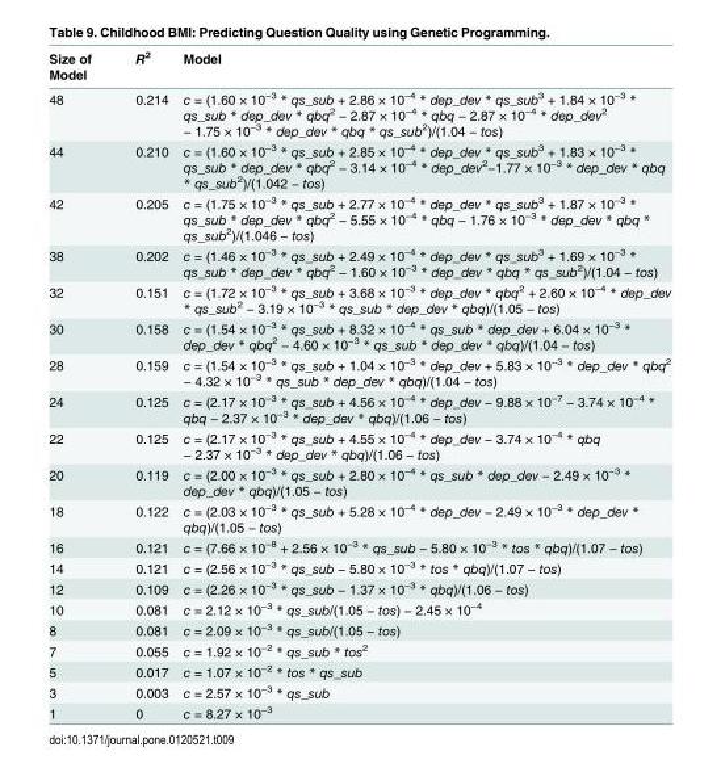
<table><thead><tr><td>Size of Model</td><td>R<sup>2</sup></td><td>Model</td></tr></thead><tbody><tr><td>48</td><td>0.214</td><td>c = (1.60 × 10−3 * qs_sub + 2.86 × 10−4 * dep_dev * qs_sub3 + 1.84 × 10−3 * qs_sub * dep_dev * qbq2 − 2.87 × 10−4 * qbq − 2.87 × 10−4 * dep_dev2 − 1.75 × 10−3 * dep_dev * qbq * qs_sub2)/(1.04 − tos)</td></tr><tr><td>44</td><td>0.210</td><td>c = (1.60 × 10−3 * qs_sub + 2.85 × 10−4 * dep_dev * qs_sub3 + 1.83 × 10−3 * qs_sub * dep_dev * qbq2 − 3.14 × 10−4 * dep_dev2−1.77 × 10−3 * dep_dev * qbq * qs_sub2)/(1.042 − tos)</td></tr><tr><td>42</td><td>0.205</td><td>c = (1.75 × 10−3 * qs_sub + 2.77 × 10−4 * dep_dev * qs_sub3 + 1.87 × 10−3 * qs_sub * dep_dev * qbq2 − 5.55 × 10−4 * qbq − 1.76 × 10−3 * dep_dev * qbq * qs_sub2)/(1.046 − tos)</td></tr><tr><td>38</td><td>0.202</td><td>c = (1.46 × 10−3 * qs_sub + 2.49 × 10−4 * dep_dev * qs_sub3 + 1.69 × 10−3 * qs_sub * dep_dev * qbq2 − 1.60 × 10−3 * dep_dev * qbq * qs_sub2)/(1.04 − tos)</td></tr><tr><td>32</td><td>0.151</td><td>c = (1.72 × 10<sup>−3</sup> * qs_sub + 3.68 × 10<sup>−3</sup> * dep_dev * qbq<sup>2</sup> + 2.60 × 10<sup>−4</sup> * dep_dev * qs_sub<sup>2</sup> − 3.19 × 10<sup>−3</sup> * qs_sub * dep_dev * qbq)/(1.05 − tos)</td></tr><tr><td>30</td><td>0.158</td><td>c = (1.54 × 10<sup>−3</sup> * qs_sub + 8.32 × 10<sup>−4</sup> * qs_sub * dep_dev + 6.04 × 10<sup>−3</sup> * dep_dev * qbq<sup>2</sup> − 4.60 × 10<sup>−3</sup> * qs_sub * dep_dev * qbq)/(1.04 − tos)</td></tr><tr><td>28</td><td>0.159</td><td>c = (1.54 × 10<sup>−3</sup> * qs_sub + 1.04 × 10<sup>−3</sup> * dep_dev + 5.83 × 10<sup>−3</sup> * dep_dev * qbq<sup>2</sup> − 4.32 × 10<sup>−3</sup> * qs_sub * dep_dev * qbq)/(1.04 − tos)</td></tr><tr><td>24</td><td>0.125</td><td>c = (2.17 × 10<sup>−3</sup> * qs_sub + 4.56 × 10<sup>−4</sup> * dep_dev − 9.88 × 10<sup>−7</sup> − 3.74 × 10<sup>−4</sup> * qbq − 2.37 × 10<sup>−3</sup> * dep_dev * qbq)/(1.06 − tos)</td></tr><tr><td>22</td><td>0.125</td><td>c = (2.17 × 10<sup>−3</sup> * qs_sub + 4.55 × 10<sup>−4</sup> * dep_dev − 3.74 × 10<sup>−4</sup> * qbq − 2.37 × 10<sup>−3</sup> * dep_dev * qbq)/(1.06 − tos)</td></tr><tr><td>20</td><td>0.119</td><td>c = (2.00 × 10<sup>−3</sup> * qs_sub + 2.80 × 10<sup>−4</sup> * qs_sub * dep_dev − 2.49 × 10<sup>−3</sup> * dep_dev * qbq)/(1.05 − tos)</td></tr><tr><td>18</td><td>0.122</td><td>c = (2.03 × 10<sup>−3</sup> * qs_sub + 5.28 × 10<sup>−4</sup> * dep_dev − 2.49 × 10<sup>−3</sup> * dep_dev * qbq)/(1.05 − tos)</td></tr><tr><td>16</td><td>0.121</td><td>c = (7.66 × 10<sup>−8</sup> + 2.56 × 10<sup>−3</sup> * qs_sub − 5.80 × 10<sup>−3</sup> * tos * qbq)/(1.07 − tos)</td></tr><tr><td>14</td><td>0.121</td><td>c = (2.56 × 10<sup>−3</sup> * qs_sub − 5.80 × 10<sup>−3</sup> * tos * qbq)/(1.07 − tos)</td></tr><tr><td>12</td><td>0.109</td><td>c = (2.26 × 10<sup>−3</sup> * qs_sub − 1.37 × 10<sup>−3</sup> * qbq)/(1.06 − tos)</td></tr><tr><td>10</td><td>0.081</td><td>c = 2.12 × 10<sup>−3</sup> * qs_sub/(1.05 − tos) − 2.45 × 10<sup>−4</sup></td></tr><tr><td>8</td><td>0.081</td><td>c = 2.09 × 10<sup>−3</sup> * qs_sub/(1.05 − tos)</td></tr><tr><td>7</td><td>0.055</td><td>c = 1.92 × 10<sup>−2</sup> * qs_sub * tos<sup>2</sup></td></tr><tr><td>5</td><td>0.017</td><td>c = 1.07 × 10<sup>−2</sup> * tos * qs_sub</td></tr><tr><td>3</td><td>0.003</td><td>c = 2.57 × 10<sup>−3</sup> * qs_sub</td></tr><tr><td>1</td><td>0</td><td>c = 8.27 × 10<sup>−3</sup></td></tr></tbody></table>